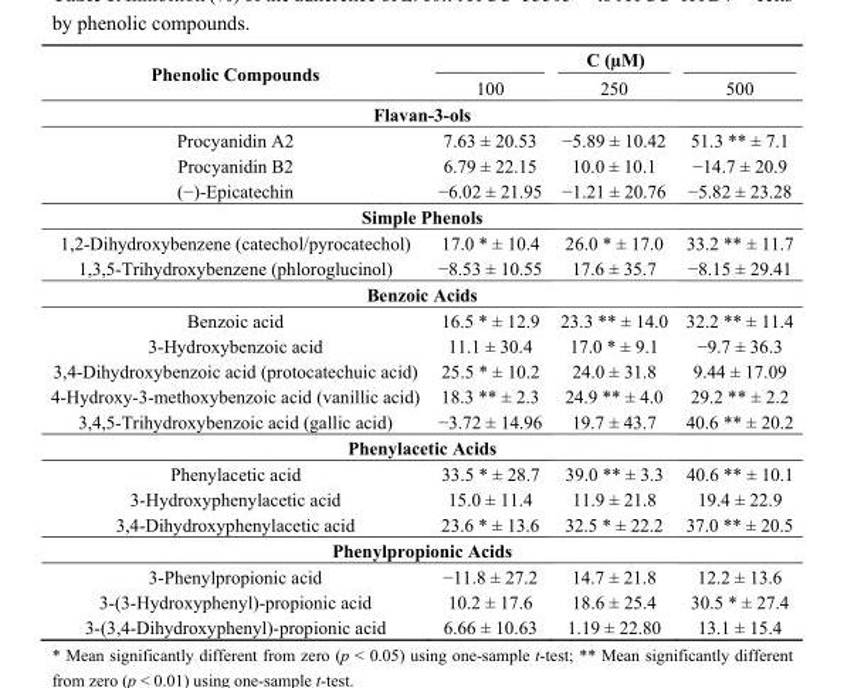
<table><thead><tr><td rowspan="2">Phenolic Compounds</td><td colspan="3">C (µM)</td></tr><tr><td>100</td><td>250</td><td>500</td></tr></thead><tbody><tr><td colspan="4">Flavan-3-ols</td></tr><tr><td>Procyanidin A2</td><td>7.63 ± 20.53</td><td>−5.89 ± 10.42</td><td>51.3 ** ± 7.1</td></tr><tr><td>Procyanidin B2</td><td>6.79 ± 22.15</td><td>10.0 ± 10.1</td><td>−14.7 ± 20.9</td></tr><tr><td>(−)-Epicatechin</td><td>−6.02 ± 21.95</td><td>−1.21 ± 20.76</td><td>−5.82 ± 23.28</td></tr><tr><td colspan="4">Simple Phenols</td></tr><tr><td>1,2-Dihydroxybenzene (catechol/pyrocatechol)</td><td>17.0 * ± 10.4</td><td>26.0 * ± 17.0</td><td>33.2 ** ± 11.7</td></tr><tr><td>1,3,5-Trihydroxybenzene (phloroglucinol)</td><td>−8.53 ± 10.55</td><td>17.6 ± 35.7</td><td>−8.15 ± 29.41</td></tr><tr><td colspan="4">Benzoic Acids</td></tr><tr><td>Benzoic acid</td><td>16.5 * ± 12.9</td><td>23.3 ** ± 14.0</td><td>32.2 ** ± 11.4</td></tr><tr><td>3-Hydroxybenzoic acid</td><td>11.1 ± 30.4</td><td>17.0 * ± 9.1</td><td>−9.7 ± 36.3</td></tr><tr><td>3,4-Dihydroxybenzoic acid (protocatechuic acid)</td><td>25.5 * ± 10.2</td><td>24.0 ± 31.8</td><td>9.44 ± 17.09</td></tr><tr><td>4-Hydroxy-3-methoxybenzoic acid (vanillic acid)</td><td>18.3 ** ± 2.3</td><td>24.9 ** ± 4.0</td><td>29.2 ** ± 2.2</td></tr><tr><td>3,4,5-Trihydroxybenzoic acid (gallic acid)</td><td>−3.72 ± 14.96</td><td>19.7 ± 43.7</td><td>40.6 ** ± 20.2</td></tr><tr><td colspan="4">Phenylacetic Acids</td></tr><tr><td>Phenylacetic acid</td><td>33.5 * ± 28.7</td><td>39.0 ** ± 3.3</td><td>40.6 ** ± 10.1</td></tr><tr><td>3-Hydroxyphenylacetic acid</td><td>15.0 ± 11.4</td><td>11.9 ± 21.8</td><td>19.4 ± 22.9</td></tr><tr><td>3,4-Dihydroxyphenylacetic acid</td><td>23.6 * ± 13.6</td><td>32.5 * ± 22.2</td><td>37.0 ** ± 20.5</td></tr><tr><td colspan="4">Phenylpropionic Acids</td></tr><tr><td>3-Phenylpropionic acid</td><td>−11.8 ± 27.2</td><td>14.7 ± 21.8</td><td>12.2 ± 13.6</td></tr><tr><td>3-(3-Hydroxyphenyl)-propionic acid</td><td>10.2 ± 17.6</td><td>18.6 ± 25.4</td><td>30.5 * ± 27.4</td></tr><tr><td>3-(3,4-Dihydroxyphenyl)-propionic acid</td><td>6.66 ± 10.63</td><td>1.19 ± 22.80</td><td>13.1 ± 15.4</td></tr></tbody></table>